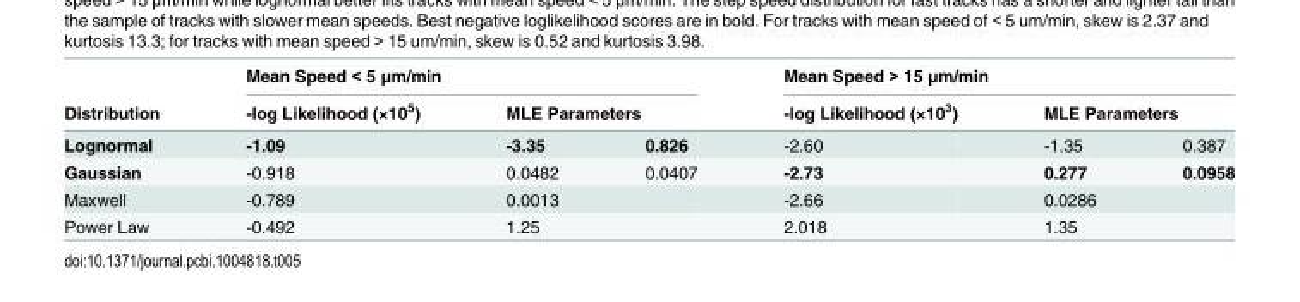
<table><thead><tr><td rowspan="3">Distribution Lognormal</td><td colspan="3">Mean Speed &lt; 5 μm/min</td><td colspan="3">Mean Speed &gt; 15 μm/min</td></tr><tr><td rowspan="2">-log Likelihood (×10<sup>5</sup>) -1.09</td><td colspan="2">MLE Parameters</td><td rowspan="2">-log Likelihood (×10<sup>3</sup>) -2.60</td><td colspan="2">MLE Parameters</td></tr><tr><td>-3.35</td><td>0.826</td><td>-1.35</td><td>0.387</td></tr></thead><tbody><tr><td>Gaussian</td><td>-0.918</td><td>0.0482</td><td>0.0407</td><td>-2.73</td><td>0.277</td><td>0.0958</td></tr><tr><td>Maxwell</td><td>-0.789</td><td>0.0013</td><td></td><td>-2.66</td><td>0.0286</td><td></td></tr><tr><td>Power Law</td><td>-0.492</td><td>1.25</td><td></td><td>2.018</td><td>1.35</td><td></td></tr></tbody></table>